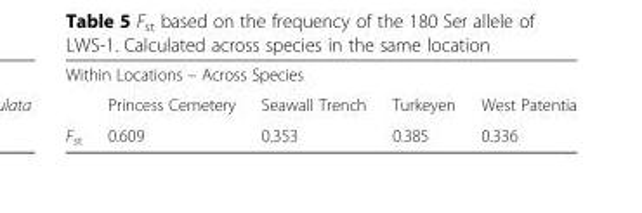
<table><tbody><tr><td colspan="5">Within Locations – Across Species</td></tr><tr><td></td><td>Princess Cemetery</td><td>Seawall Trench</td><td>Turkeyen</td><td>West Patentia</td></tr><tr><td>F<sub>st</sub></td><td>0.609</td><td>0.353</td><td>0.385</td><td>0.336</td></tr></tbody></table>